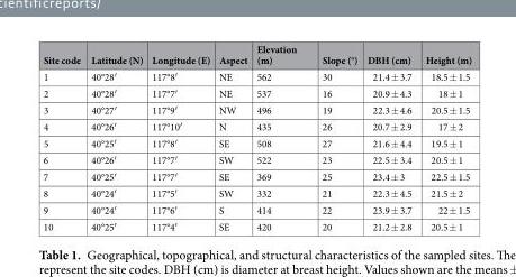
<table><thead><tr><td>Site code</td><td>Latitude (N)</td><td>Longitude (E)</td><td>Aspect</td><td>Elevation (m)</td><td>Slope (°)</td><td>DBH (cm)</td><td>Height (m)</td></tr></thead><tbody><tr><td>1</td><td>40°28′</td><td>117°8′</td><td>NE</td><td>562</td><td>30</td><td>21.4 ± 3.7</td><td>18.5 ± 1.5</td></tr><tr><td>2</td><td>40°28′</td><td>117°7′</td><td>NE</td><td>537</td><td>16</td><td>20.9 ± 4.3</td><td>18 ± 1</td></tr><tr><td>3</td><td>40°27′</td><td>117°9′</td><td>NW</td><td>496</td><td>19</td><td>22.3 ± 4.6</td><td>20.5 ± 1.5</td></tr><tr><td>4</td><td>40°26′</td><td>117°10′</td><td>N</td><td>435</td><td>26</td><td>20.7 ± 2.9</td><td>17 ± 2</td></tr><tr><td>5</td><td>40°25′</td><td>117°8′</td><td>SE</td><td>508</td><td>27</td><td>21.6 ± 4.4</td><td>19.5 ± 1</td></tr><tr><td>6</td><td>40°26′</td><td>117°7′</td><td>SW</td><td>522</td><td>23</td><td>22.5 ± 3.4</td><td>20.5 ± 1</td></tr><tr><td>7</td><td>40°25′</td><td>117°7′</td><td>SE</td><td>369</td><td>25</td><td>23.4 ± 3</td><td>22.5 ± 1.5</td></tr><tr><td>8</td><td>40°24′</td><td>117°5′</td><td>SW</td><td>332</td><td>21</td><td>22.3 ± 4.5</td><td>21.5 ± 2</td></tr><tr><td>9</td><td>40°24′</td><td>117°6′</td><td>S</td><td>414</td><td>22</td><td>23.9 ± 3.7</td><td>22 ± 1.5</td></tr><tr><td>10</td><td>40°25′</td><td>117°4′</td><td>SE</td><td>420</td><td>20</td><td>21.2 ± 2.8</td><td>20.5 ± 1</td></tr></tbody></table>